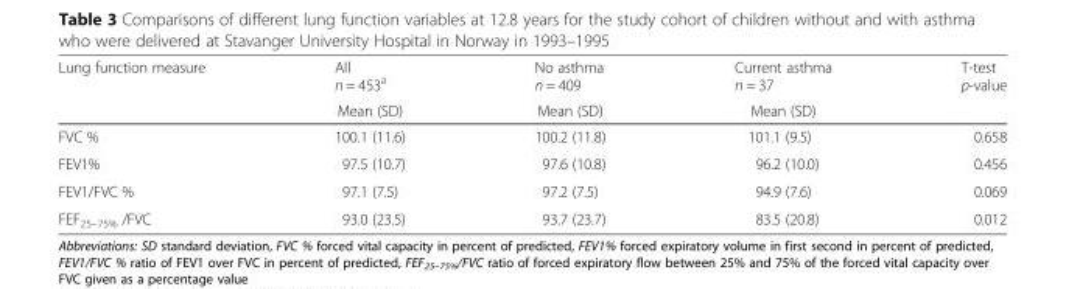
<table><thead><tr><td rowspan="2">Lung function measure</td><td rowspan="2">All n = 453<sup>a</sup> Mean (SD)</td><td rowspan="2">No asthma n = 409 Mean (SD)</td><td rowspan="2">Current asthma n = 37 Mean (SD)</td><td rowspan="2">T-test p-value</td></tr><tr></tr></thead><tbody><tr><td>FVC %</td><td>100.1 (11.6)</td><td>100.2 (11.8)</td><td>101.1 (9.5)</td><td>0.658</td></tr><tr><td>FEV1%</td><td>97.5 (10.7)</td><td>97.6 (10.8)</td><td>96.2 (10.0)</td><td>0.456</td></tr><tr><td>FEV1/FVC %</td><td>97.1 (7.5)</td><td>97.2 (7.5)</td><td>94.9 (7.6)</td><td>0.069</td></tr><tr><td>FEF<sub>25–75%</sub> /FVC</td><td>93.0 (23.5)</td><td>93.7 (23.7)</td><td>83.5 (20.8)</td><td>0.012</td></tr></tbody></table>